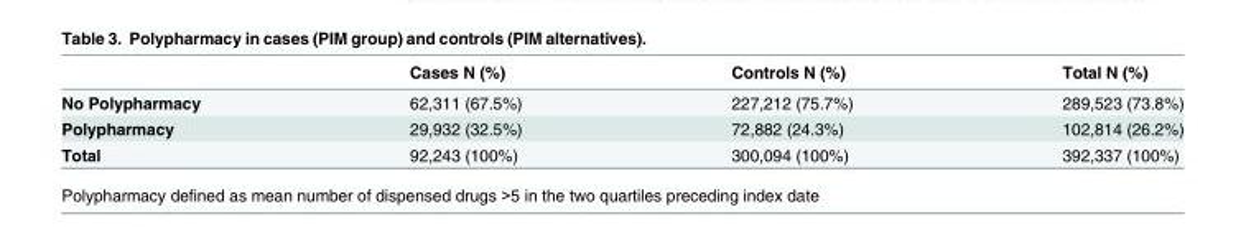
<table><thead><tr><td></td><td>Cases N (%)</td><td>Controls N (%)</td><td>Total N (%)</td></tr></thead><tbody><tr><td>No Polypharmacy</td><td>62,311 (67.5%)</td><td>227,212 (75.7%)</td><td>289,523 (73.8%)</td></tr><tr><td>Polypharmacy</td><td>29,932 (32.5%)</td><td>72,882 (24.3%)</td><td>102,814 (26.2%)</td></tr><tr><td>Total</td><td>92,243 (100%)</td><td>300,094 (100%)</td><td>392,337 (100%)</td></tr></tbody></table>